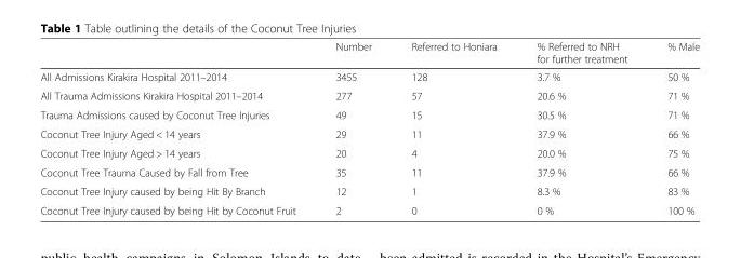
<table><thead><tr><td></td><td>Number</td><td>Referred to Honiara</td><td>% Referred to NRH for further treatment</td><td>% Male</td></tr></thead><tbody><tr><td>All Admissions Kirakira Hospital 2011–2014</td><td>3455</td><td>128</td><td>3.7 %</td><td>50 %</td></tr><tr><td>All Trauma Admissions Kirakira Hospital 2011–2014</td><td>277</td><td>57</td><td>20.6 %</td><td>71 %</td></tr><tr><td>Trauma Admissions caused by Coconut Tree Injuries</td><td>49</td><td>15</td><td>30.5 %</td><td>71 %</td></tr><tr><td>Coconut Tree Injury Aged &lt; 14 years</td><td>29</td><td>11</td><td>37.9 %</td><td>66 %</td></tr><tr><td>Coconut Tree Injury Aged &gt; 14 years</td><td>20</td><td>4</td><td>20.0 %</td><td>75 %</td></tr><tr><td>Coconut Tree Trauma Caused by Fall from Tree</td><td>35</td><td>11</td><td>37.9 %</td><td>66 %</td></tr><tr><td>Coconut Tree Injury caused by being Hit By Branch</td><td>12</td><td>1</td><td>8.3 %</td><td>83 %</td></tr><tr><td>Coconut Tree Injury caused by being Hit by Coconut Fruit</td><td>2</td><td>0</td><td>0 %</td><td>100 %</td></tr></tbody></table>